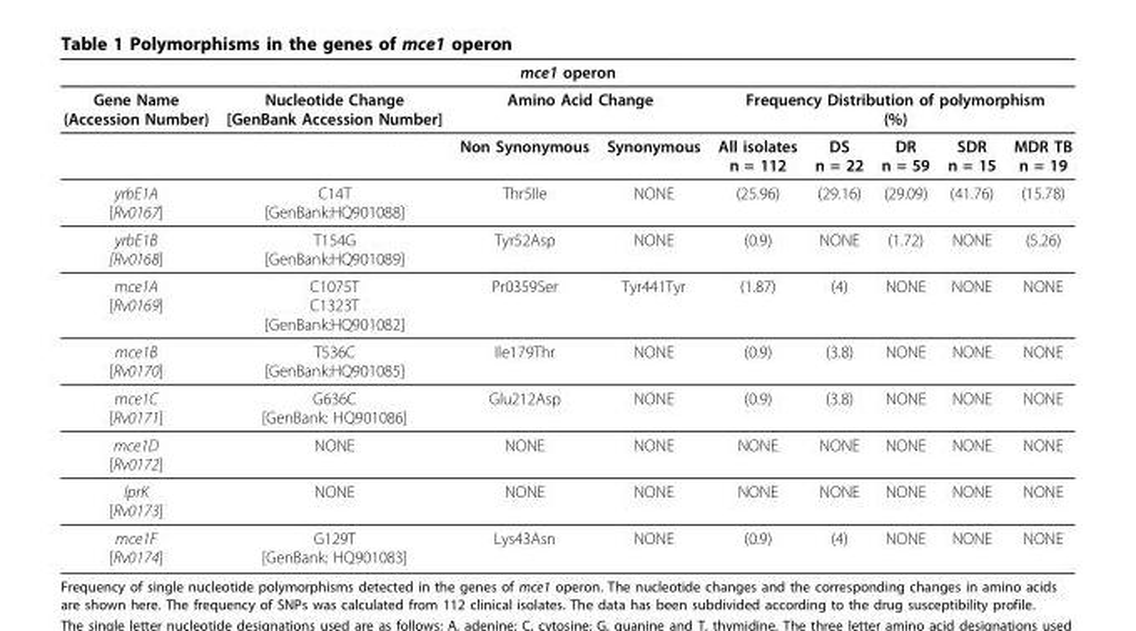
<table><thead><tr><td colspan="9">mce1 operon</td></tr><tr><td rowspan="2">Gene Name (Accession Number)</td><td rowspan="2">Nucleotide Change [GenBank Accession Number]</td><td colspan="2">Amino Acid Change</td><td colspan="5">Frequency Distribution of polymorphism (%)</td></tr><tr><td>Non Synonymous</td><td>Synonymous</td><td>All isolates n = 112</td><td>DS n = 22</td><td>DR n = 59</td><td>SDR n = 15</td><td>MDR TB n = 19</td></tr></thead><tbody><tr><td>yrbE1A [Rv0167]</td><td>C14T [GenBank:HQ901088]</td><td>Thr5Ile</td><td>NONE</td><td>(25.96)</td><td>(29.16)</td><td>(29.09)</td><td>(41.76)</td><td>(15.78)</td></tr><tr><td>yrbE1B [Rv0168]</td><td>T154G [GenBank:HQ901089]</td><td>Tyr52Asp</td><td>NONE</td><td>(0.9)</td><td>NONE</td><td>(1.72)</td><td>NONE</td><td>(5.26)</td></tr><tr><td>mce1A [Rv0169]</td><td>C1075T C1323T [GenBank:HQ901082]</td><td>Pr0359Ser</td><td>Tyr441Tyr</td><td>(1.87)</td><td>(4)</td><td>NONE</td><td>NONE</td><td>NONE</td></tr><tr><td>mce1B [Rv0170]</td><td>T536C [GenBank:HQ901085]</td><td>Ile179Thr</td><td>NONE</td><td>(0.9)</td><td>(3.8)</td><td>NONE</td><td>NONE</td><td>NONE</td></tr><tr><td>mce1C [Rv0171]</td><td>G636C [GenBank: HQ901086]</td><td>Glu212Asp</td><td>NONE</td><td>(0.9)</td><td>(3.8)</td><td>NONE</td><td>NONE</td><td>NONE</td></tr><tr><td>mce1D [Rv0172]</td><td>NONE</td><td>NONE</td><td>NONE</td><td>NONE</td><td>NONE</td><td>NONE</td><td>NONE</td><td>NONE</td></tr><tr><td>lprK [Rv0173]</td><td>NONE</td><td>NONE</td><td>NONE</td><td>NONE</td><td>NONE</td><td>NONE</td><td>NONE</td><td>NONE</td></tr><tr><td>mce1F [Rv0174]</td><td>G129T [GenBank: HQ901083]</td><td>Lys43Asn</td><td>NONE</td><td>(0.9)</td><td>(4)</td><td>NONE</td><td>NONE</td><td>NONE</td></tr></tbody></table>